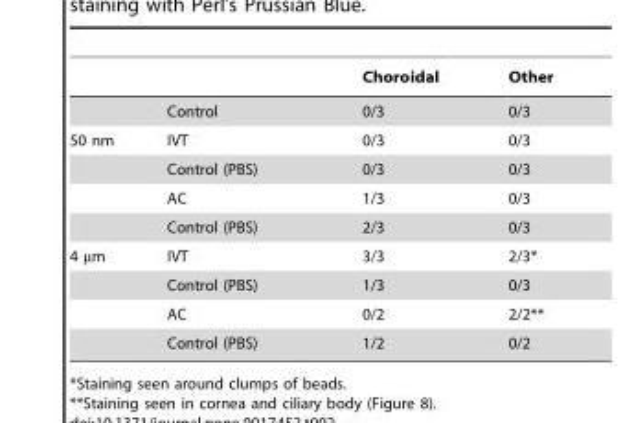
<table><thead><tr><td></td><td></td><td>Choroidal</td><td>Other</td></tr></thead><tbody><tr><td></td><td>Control</td><td>0/3</td><td>0/3</td></tr><tr><td rowspan="4">50 nm</td><td>IVT</td><td>0/3</td><td>0/3</td></tr><tr><td>Control (PBS)</td><td>0/3</td><td>0/3</td></tr><tr><td>AC</td><td>1/3</td><td>0/3</td></tr><tr><td>Control (PBS)</td><td>2/3</td><td>0/3</td></tr><tr><td rowspan="4">4 µm</td><td>IVT</td><td>3/3</td><td>2/3*</td></tr><tr><td>Control (PBS)</td><td>1/3</td><td>0/3</td></tr><tr><td>AC</td><td>0/2</td><td>2/2**</td></tr><tr><td>Control (PBS)</td><td>1/2</td><td>0/2</td></tr></tbody></table>